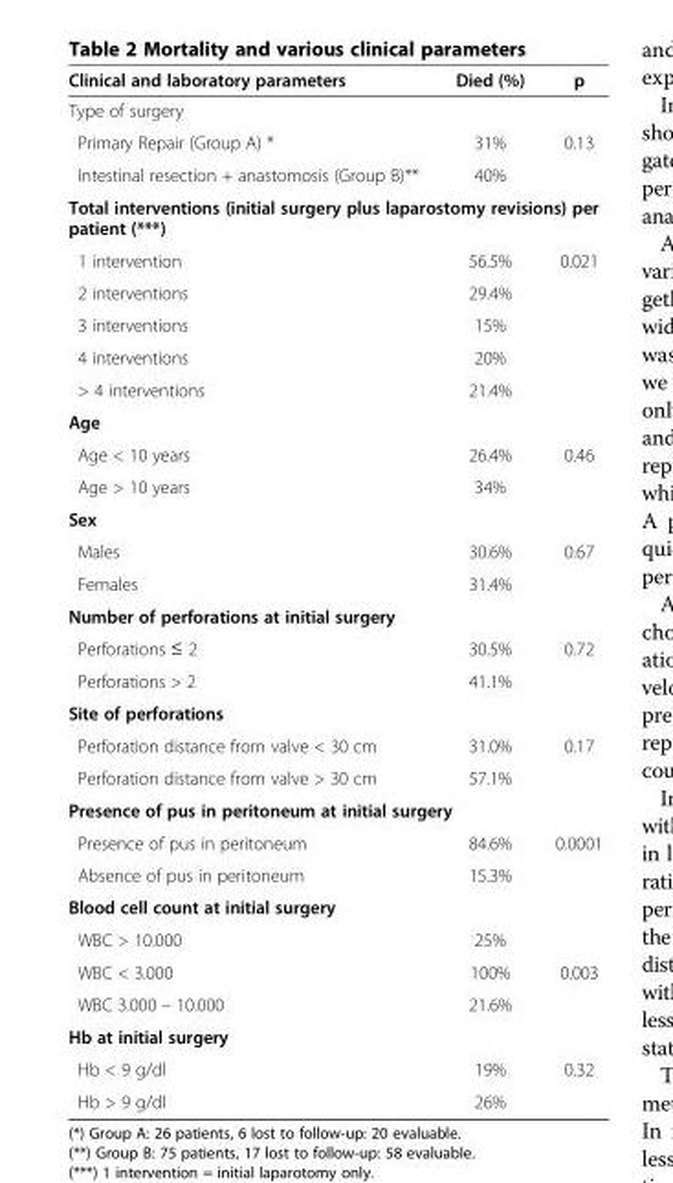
<table><thead><tr><td>Clinical and laboratory parameters</td><td>Died (%)</td><td>p</td></tr></thead><tbody><tr><td colspan="3">Type of surgery</td></tr><tr><td>Primary Repair (Group A) *</td><td>31%</td><td rowspan="2">0.13</td></tr><tr><td>Intestinal resection + anastomosis (Group B)**</td><td>40%</td></tr><tr><td colspan="3">Total interventions (initial surgery plus laparostomy revisions) per patient (***)</td></tr><tr><td>1 intervention</td><td>56.5%</td><td rowspan="5">0.021</td></tr><tr><td>2 interventions</td><td>29.4%</td></tr><tr><td>3 interventions</td><td>15%</td></tr><tr><td>4 interventions</td><td>20%</td></tr><tr><td>&gt; 4 interventions</td><td>21.4%</td></tr><tr><td colspan="3">Age</td></tr><tr><td>Age &lt; 10 years</td><td>26.4%</td><td rowspan="2">0.46</td></tr><tr><td>Age &gt; 10 years</td><td>34%</td></tr><tr><td colspan="3">Sex</td></tr><tr><td>Males</td><td>30.6%</td><td rowspan="2">0.67</td></tr><tr><td>Females</td><td>31.4%</td></tr><tr><td colspan="3">Number of perforations at initial surgery</td></tr><tr><td>Perforations ≤ 2</td><td>30.5%</td><td rowspan="2">0.72</td></tr><tr><td>Perforations &gt; 2</td><td>41.1%</td></tr><tr><td colspan="3">Site of perforations</td></tr><tr><td>Perforation distance from valve &lt; 30 cm</td><td>31.0%</td><td rowspan="2">0.17</td></tr><tr><td>Perforation distance from valve &gt; 30 cm</td><td>57.1%</td></tr><tr><td colspan="3">Presence of pus in peritoneum at initial surgery</td></tr><tr><td>Presence of pus in peritoneum</td><td>84.6%</td><td rowspan="2">0.0001</td></tr><tr><td>Absence of pus in peritoneum</td><td>15.3%</td></tr><tr><td colspan="3">Blood cell count at initial surgery</td></tr><tr><td>WBC &gt; 10.000</td><td>25%</td><td></td></tr><tr><td>WBC &lt; 3.000</td><td>100%</td><td>0.003</td></tr><tr><td>WBC 3.000 – 10.000</td><td>21.6%</td><td></td></tr><tr><td colspan="3">Hb at initial surgery</td></tr><tr><td>Hb &lt; 9 g/dl</td><td>19%</td><td rowspan="2">0.32</td></tr><tr><td>Hb &gt; 9 g/dl</td><td>26%</td></tr></tbody></table>